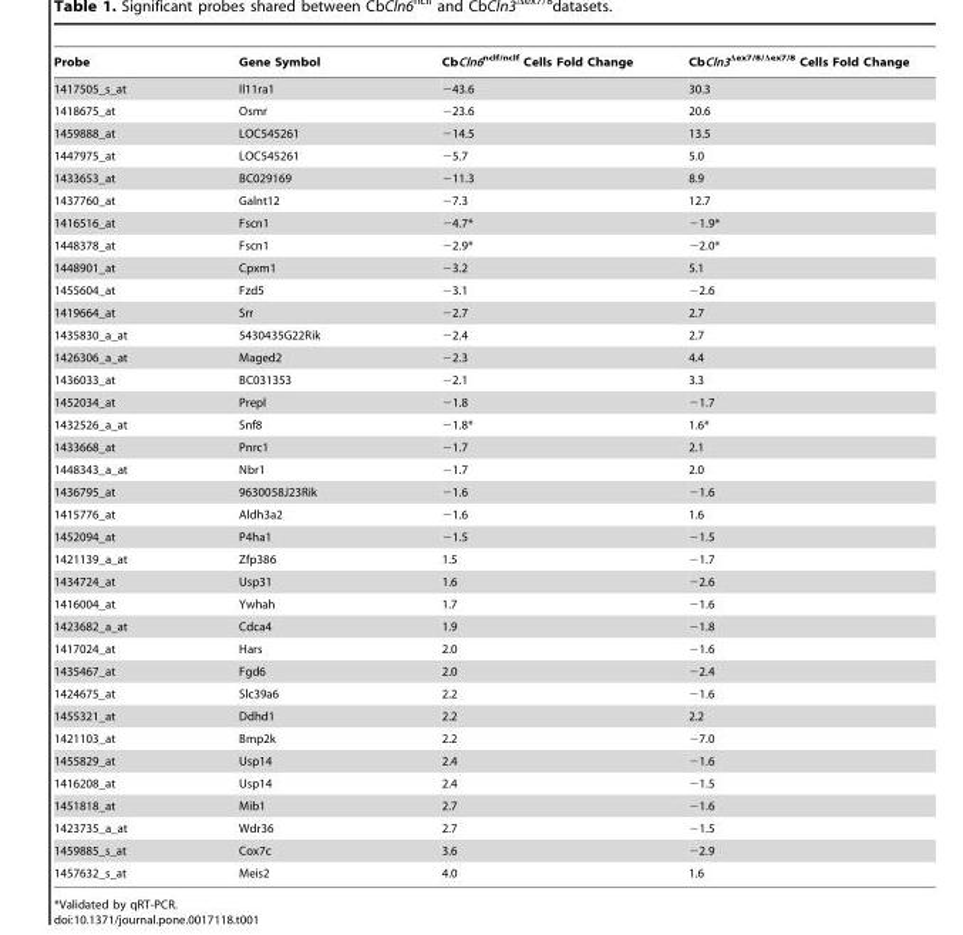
<table><thead><tr><td>Probe</td><td>Gene Symbol</td><td>CbCln6<sup>nclf/nclf</sup> Cells Fold Change</td><td>CbCln3<sup>Δex7/8/Δex7/8</sup> Cells Fold Change</td></tr></thead><tbody><tr><td>1417505_s_at</td><td>Il11ra1</td><td>−43.6</td><td>30.3</td></tr><tr><td>1418675_at</td><td>Osmr</td><td>−23.6</td><td>20.6</td></tr><tr><td>1459888_at</td><td>LOC545261</td><td>−14.5</td><td>13.5</td></tr><tr><td>1447975_at</td><td>LOC545261</td><td>−5.7</td><td>5.0</td></tr><tr><td>1433653_at</td><td>BC029169</td><td>−11.3</td><td>8.9</td></tr><tr><td>1437760_at</td><td>Galnt12</td><td>−7.3</td><td>12.7</td></tr><tr><td>1416516_at</td><td>Fscn1</td><td>−4.7*</td><td>−1.9*</td></tr><tr><td>1448378_at</td><td>Fscn1</td><td>−2.9*</td><td>−2.0*</td></tr><tr><td>1448901_at</td><td>Cpxm1</td><td>−3.2</td><td>5.1</td></tr><tr><td>1455604_at</td><td>Fzd5</td><td>−3.1</td><td>−2.6</td></tr><tr><td>1419664_at</td><td>Srr</td><td>−2.7</td><td>2.7</td></tr><tr><td>1435830_a_at</td><td>5430435G22Rik</td><td>−2.4</td><td>2.7</td></tr><tr><td>1426306_a_at</td><td>Maged2</td><td>−2.3</td><td>4.4</td></tr><tr><td>1436033_at</td><td>BC031353</td><td>−2.1</td><td>3.3</td></tr><tr><td>1452034_at</td><td>Prepl</td><td>−1.8</td><td>−1.7</td></tr><tr><td>1432526_a_at</td><td>Snf8</td><td>−1.8*</td><td>1.6*</td></tr><tr><td>1433668_at</td><td>Pnrc1</td><td>−1.7</td><td>2.1</td></tr><tr><td>1448343_a_at</td><td>Nbr1</td><td>−1.7</td><td>2.0</td></tr><tr><td>1436795_at</td><td>9630058J23Rik</td><td>−1.6</td><td>−1.6</td></tr><tr><td>1415776_at</td><td>Aldh3a2</td><td>−1.6</td><td>1.6</td></tr><tr><td>1452094_at</td><td>P4ha1</td><td>−1.5</td><td>−1.5</td></tr><tr><td>1421139_a_at</td><td>Zfp386</td><td>1.5</td><td>−1.7</td></tr><tr><td>1434724_at</td><td>Usp31</td><td>1.6</td><td>−2.6</td></tr><tr><td>1416004_at</td><td>Ywhah</td><td>1.7</td><td>−1.6</td></tr><tr><td>1423682_a_at</td><td>Cdca4</td><td>1.9</td><td>−1.8</td></tr><tr><td>1417024_at</td><td>Hars</td><td>2.0</td><td>−1.6</td></tr><tr><td>1435467_at</td><td>Fgd6</td><td>2.0</td><td>−2.4</td></tr><tr><td>1424675_at</td><td>Slc39a6</td><td>2.2</td><td>−1.6</td></tr><tr><td>1455321_at</td><td>Ddhd1</td><td>2.2</td><td>2.2</td></tr><tr><td>1421103_at</td><td>Bmp2k</td><td>2.2</td><td>−7.0</td></tr><tr><td>1455829_at</td><td>Usp14</td><td>2.4</td><td>−1.6</td></tr><tr><td>1416208_at</td><td>Usp14</td><td>2.4</td><td>−1.5</td></tr><tr><td>1451818_at</td><td>Mib1</td><td>2.7</td><td>−1.6</td></tr><tr><td>1423735_a_at</td><td>Wdr36</td><td>2.7</td><td>−1.5</td></tr><tr><td>1459885_s_at</td><td>Cox7c</td><td>3.6</td><td>−2.9</td></tr><tr><td>1457632_s_at</td><td>Meis2</td><td>4.0</td><td>1.6</td></tr></tbody></table>